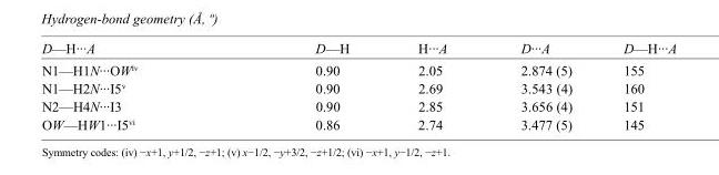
<table><tbody><tr><td>D—H···A</td><td>D—H</td><td>H···A</td><td>D···A</td><td>D—H···A</td></tr><tr><td>N1—H1N···OW<sup>iv</sup></td><td>0.90</td><td>2.05</td><td>2.874 (5)</td><td>155</td></tr><tr><td>N1—H2N···I5<sup>v</sup></td><td>0.90</td><td>2.69</td><td>3.543 (4)</td><td>160</td></tr><tr><td>N2—H4N···I3</td><td>0.90</td><td>2.85</td><td>3.656 (4)</td><td>151</td></tr><tr><td>OW—HW1···I5<sup>vi</sup></td><td>0.86</td><td>2.74</td><td>3.477 (5)</td><td>145</td></tr></tbody></table>